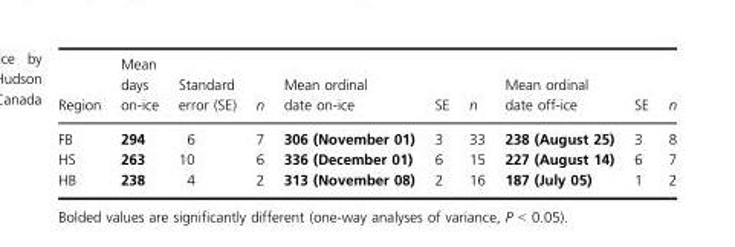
<table><thead><tr><td>Region</td><td>Mean days on-ice</td><td>Standard error (SE)</td><td>n</td><td>Mean ordinal date on-ice</td><td>SE</td><td>n</td><td>Mean ordinal date off-ice</td><td>SE</td><td>n</td></tr></thead><tbody><tr><td>FB</td><td>294</td><td>6</td><td>7</td><td>306 (November 01)</td><td>3</td><td>33</td><td>238 (August 25)</td><td>3</td><td>8</td></tr><tr><td>HS</td><td>263</td><td>10</td><td>6</td><td>336 (December 01)</td><td>6</td><td>15</td><td>227 (August 14)</td><td>6</td><td>7</td></tr><tr><td>HB</td><td>238</td><td>4</td><td>2</td><td>313 (November 08)</td><td>2</td><td>16</td><td>187 (July 05)</td><td>1</td><td>2</td></tr></tbody></table>